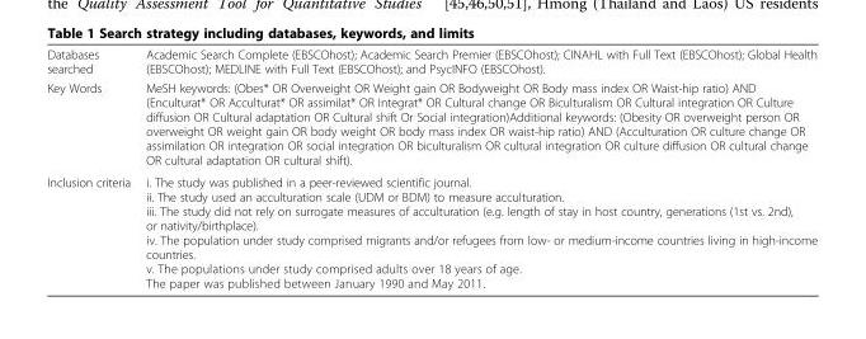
<table><tbody><tr><td>Databases searched</td><td>Academic Search Complete (EBSCOhost); Academic Search Premier (EBSCOhost); CINAHL with Full Text (EBSCOhost); Global Health (EBSCOhost); MEDLINE with Full Text (EBSCOhost); and PsycINFO (EBSCOhost).</td></tr><tr><td>Key Words</td><td>MeSH keywords: (Obes* OR Overweight OR Weight gain OR Bodyweight OR Body mass index OR Waist-hip ratio) AND (Enculturat* OR Acculturat* OR assimilat* OR Integrat* OR Cultural change OR Biculturalism OR Cultural integration OR Culture diffusion OR Cultural adaptation OR Cultural shift Or Social integration)Additional keywords: (Obesity OR overweight person OR overweight OR weight gain OR body weight OR body mass index OR waist-hip ratio) AND (Acculturation OR culture change OR assimilation OR integration OR social integration OR biculturalism OR cultural integration OR culture diffusion OR cultural change OR cultural adaptation OR cultural shift).</td></tr><tr><td>Inclusion criteria</td><td>i. The study was published in a peer-reviewed scientific journal. ii. The study used an acculturation scale (UDM or BDM) to measure acculturation. iii. The study did not rely on surrogate measures of acculturation (e.g. length of stay in host country, generations (1st vs. 2nd), or nativity/birthplace). iv. The population under study comprised migrants and/or refugees from low- or medium-income countries living in high-income countries. v. The populations under study comprised adults over 18 years of age. The paper was published between January 1990 and May 2011.</td></tr></tbody></table>